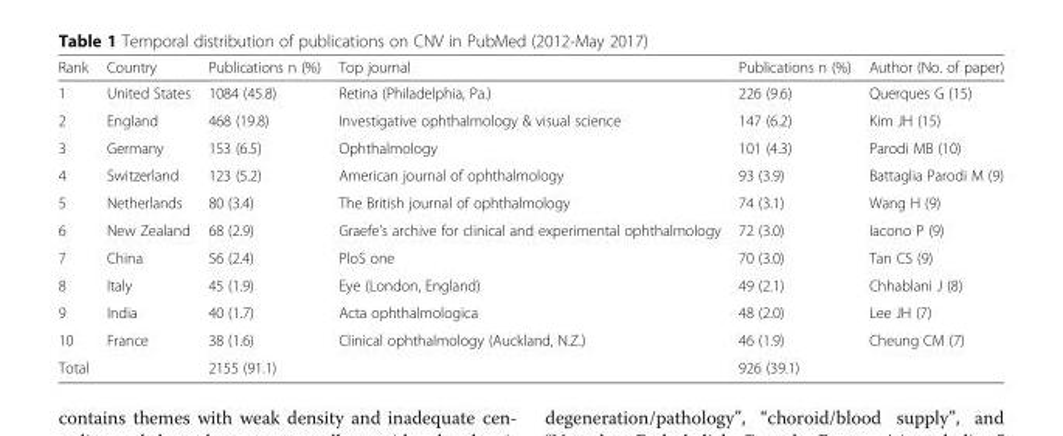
<table><thead><tr><td>Rank</td><td>Country</td><td>Publications n (%)</td><td>Top journal</td><td>Publications n (%)</td><td>Author (No. of paper)</td></tr></thead><tbody><tr><td>1</td><td>United States</td><td>1084 (45.8)</td><td>Retina (Philadelphia, Pa.)</td><td>226 (9.6)</td><td>Querques G (15)</td></tr><tr><td>2</td><td>England</td><td>468 (19.8)</td><td>Investigative ophthalmology &amp; visual science</td><td>147 (6.2)</td><td>Kim JH (15)</td></tr><tr><td>3</td><td>Germany</td><td>153 (6.5)</td><td>Ophthalmology</td><td>101 (4.3)</td><td>Parodi MB (10)</td></tr><tr><td>4</td><td>Switzerland</td><td>123 (5.2)</td><td>American journal of ophthalmology</td><td>93 (3.9)</td><td>Battaglia Parodi M (9)</td></tr><tr><td>5</td><td>Netherlands</td><td>80 (3.4)</td><td>The British journal of ophthalmology</td><td>74 (3.1)</td><td>Wang H (9)</td></tr><tr><td>6</td><td>New Zealand</td><td>68 (2.9)</td><td>Graefe’s archive for clinical and experimental ophthalmology</td><td>72 (3.0)</td><td>Iacono P (9)</td></tr><tr><td>7</td><td>China</td><td>56 (2.4)</td><td>PloS one</td><td>70 (3.0)</td><td>Tan CS (9)</td></tr><tr><td>8</td><td>Italy</td><td>45 (1.9)</td><td>Eye (London, England)</td><td>49 (2.1)</td><td>Chhablani J (8)</td></tr><tr><td>9</td><td>India</td><td>40 (1.7)</td><td>Acta ophthalmologica</td><td>48 (2.0)</td><td>Lee JH (7)</td></tr><tr><td>10</td><td>France</td><td>38 (1.6)</td><td>Clinical ophthalmology (Auckland, N.Z.)</td><td>46 (1.9)</td><td>Cheung CM (7)</td></tr><tr><td>Total</td><td></td><td>2155 (91.1)</td><td></td><td>926 (39.1)</td><td></td></tr></tbody></table>